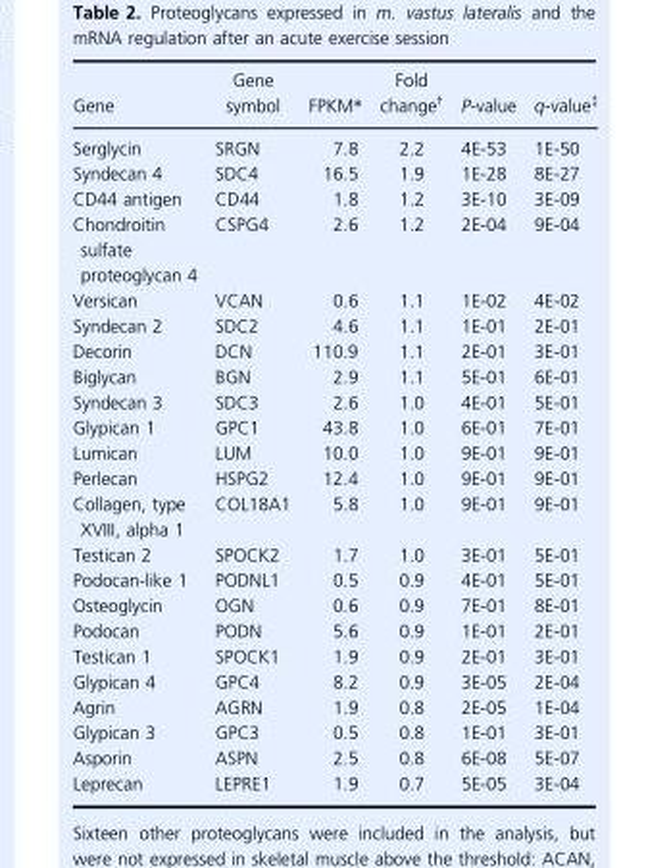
<table><thead><tr><td>Gene</td><td>Gene symbol</td><td>FPKM*</td><td>Fold change†</td><td>P-value</td><td>q-value‡</td></tr></thead><tbody><tr><td>Serglycin</td><td>SRGN</td><td>7.8</td><td>2.2</td><td>4E-53</td><td>1E-50</td></tr><tr><td>Syndecan 4</td><td>SDC4</td><td>16.5</td><td>1.9</td><td>1E-28</td><td>8E-27</td></tr><tr><td>CD44 antigen</td><td>CD44</td><td>1.8</td><td>1.2</td><td>3E-10</td><td>3E-09</td></tr><tr><td>Chondroitin sulfate proteoglycan 4</td><td>CSPG4</td><td>2.6</td><td>1.2</td><td>2E-04</td><td>9E-04</td></tr><tr><td>Versican</td><td>VCAN</td><td>0.6</td><td>1.1</td><td>1E-02</td><td>4E-02</td></tr><tr><td>Syndecan 2</td><td>SDC2</td><td>4.6</td><td>1.1</td><td>1E-01</td><td>2E-01</td></tr><tr><td>Decorin</td><td>DCN</td><td>110.9</td><td>1.1</td><td>2E-01</td><td>3E-01</td></tr><tr><td>Biglycan</td><td>BGN</td><td>2.9</td><td>1.1</td><td>5E-01</td><td>6E-01</td></tr><tr><td>Syndecan 3</td><td>SDC3</td><td>2.6</td><td>1.0</td><td>4E-01</td><td>5E-01</td></tr><tr><td>Glypican 1</td><td>GPC1</td><td>43.8</td><td>1.0</td><td>6E-01</td><td>7E-01</td></tr><tr><td>Lumican</td><td>LUM</td><td>10.0</td><td>1.0</td><td>9E-01</td><td>9E-01</td></tr><tr><td>Perlecan</td><td>HSPG2</td><td>12.4</td><td>1.0</td><td>9E-01</td><td>9E-01</td></tr><tr><td>Collagen, type XVIII, alpha 1</td><td>COL18A1</td><td>5.8</td><td>1.0</td><td>9E-01</td><td>9E-01</td></tr><tr><td>Testican 2</td><td>SPOCK2</td><td>1.7</td><td>1.0</td><td>3E-01</td><td>5E-01</td></tr><tr><td>Podocan-like 1</td><td>PODNL1</td><td>0.5</td><td>0.9</td><td>4E-01</td><td>5E-01</td></tr><tr><td>Osteoglycin</td><td>OGN</td><td>0.6</td><td>0.9</td><td>7E-01</td><td>8E-01</td></tr><tr><td>Podocan</td><td>PODN</td><td>5.6</td><td>0.9</td><td>1E-01</td><td>2E-01</td></tr><tr><td>Testican 1</td><td>SPOCK1</td><td>1.9</td><td>0.9</td><td>2E-01</td><td>3E-01</td></tr><tr><td>Glypican 4</td><td>GPC4</td><td>8.2</td><td>0.9</td><td>3E-05</td><td>2E-04</td></tr><tr><td>Agrin</td><td>AGRN</td><td>1.9</td><td>0.8</td><td>2E-05</td><td>1E-04</td></tr><tr><td>Glypican 3</td><td>GPC3</td><td>0.5</td><td>0.8</td><td>1E-01</td><td>3E-01</td></tr><tr><td>Asporin</td><td>ASPN</td><td>2.5</td><td>0.8</td><td>6E-08</td><td>5E-07</td></tr><tr><td>Leprecan</td><td>LEPRE1</td><td>1.9</td><td>0.7</td><td>5E-05</td><td>3E-04</td></tr></tbody></table>